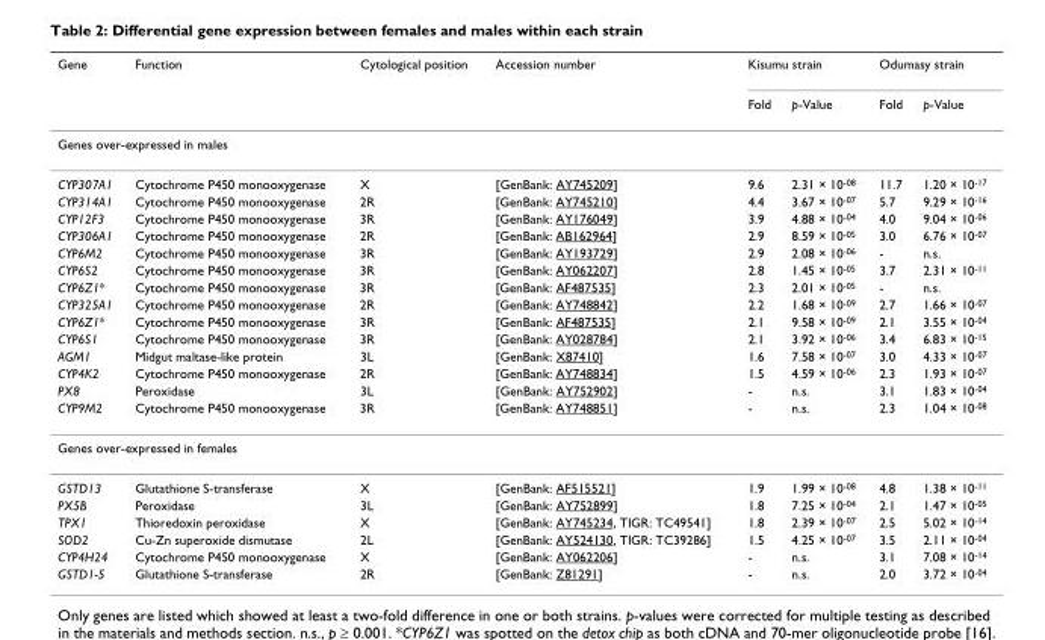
<table><thead><tr><td rowspan="2">Gene</td><td rowspan="2">Function</td><td rowspan="2">Cytological position</td><td rowspan="2">Accession number</td><td colspan="2">Kisumu strain</td><td colspan="2">Odumasy strain</td></tr><tr><td>Fold</td><td>p-Value</td><td>Fold</td><td>p-Value</td></tr></thead><tbody><tr><td colspan="8">Genes over-expressed in males</td></tr><tr><td>CYP307A1</td><td>Cytochrome P450 monooxygenase</td><td>X</td><td>[GenBank: AY745209]</td><td>9.6</td><td>2.31 × 10-08</td><td>11.7</td><td>1.20 × 10-17</td></tr><tr><td>CYP314A1</td><td>Cytochrome P450 monooxygenase</td><td>2R</td><td>[GenBank: AY745210]</td><td>4.4</td><td>3.67 × 10-07</td><td>5.7</td><td>9.29 × 10-16</td></tr><tr><td>CYP12F3</td><td>Cytochrome P450 monooxygenase</td><td>3R</td><td>[GenBank: AY176049]</td><td>3.9</td><td>4.88 × 10-04</td><td>4.0</td><td>9.04 × 10-06</td></tr><tr><td>CYP306A1</td><td>Cytochrome P450 monooxygenase</td><td>2R</td><td>[GenBank: AB162964]</td><td>2.9</td><td>8.59 × 10-05</td><td>3.0</td><td>6.76 × 10-07</td></tr><tr><td>CYP6M2</td><td>Cytochrome P450 monooxygenase</td><td>3R</td><td>[GenBank: AY193729]</td><td>2.9</td><td>2.08 × 10-06</td><td>-</td><td>n.s.</td></tr><tr><td>CYP6S2</td><td>Cytochrome P450 monooxygenase</td><td>3R</td><td>[GenBank: AY062207]</td><td>2.8</td><td>1.45 × 10-05</td><td>3.7</td><td>2.31 × 10-11</td></tr><tr><td>CYP6Z1*</td><td>Cytochrome P450 monooxygenase</td><td>3R</td><td>[GenBank: AF487535]</td><td>2.3</td><td>2.01 × 10-05</td><td>-</td><td>n.s.</td></tr><tr><td>CYP325A1</td><td>Cytochrome P450 monooxygenase</td><td>2R</td><td>[GenBank: AY748842]</td><td>2.2</td><td>1.68 × 10-09</td><td>2.7</td><td>1.66 × 10-07</td></tr><tr><td>CYP6Z1*</td><td>Cytochrome P450 monooxygenase</td><td>3R</td><td>[GenBank: AF487535]</td><td>2.1</td><td>9.58 × 10-09</td><td>2.1</td><td>3.55 × 10-04</td></tr><tr><td>CYP6S1</td><td>Cytochrome P450 monooxygenase</td><td>3R</td><td>[GenBank: AY028784]</td><td>2.1</td><td>3.92 × 10-06</td><td>3.4</td><td>6.83 × 10-15</td></tr><tr><td>AGM1</td><td>Midgut maltase-like protein</td><td>3L</td><td>[GenBank: X87410]</td><td>1.6</td><td>7.58 × 10-07</td><td>3.0</td><td>4.33 × 10-07</td></tr><tr><td>CYP4K2</td><td>Cytochrome P450 monooxygenase</td><td>2R</td><td>[GenBank: AY748834]</td><td>1.5</td><td>4.59 × 10-06</td><td>2.3</td><td>1.93 × 10-07</td></tr><tr><td>PX8</td><td>Peroxidase</td><td>3L</td><td>[GenBank: AY752902]</td><td>-</td><td>n.s.</td><td>3.1</td><td>1.83 × 10-04</td></tr><tr><td>CYP9M2</td><td>Cytochrome P450 monooxygenase</td><td>3R</td><td>[GenBank: AY748851]</td><td>-</td><td>n.s.</td><td>2.3</td><td>1.04 × 10-08</td></tr><tr><td colspan="8">Genes over-expressed in females</td></tr><tr><td>GSTD13</td><td>Glutathione S-transferase</td><td>X</td><td>[GenBank: AF515521]</td><td>1.9</td><td>1.99 × 10-08</td><td>4.8</td><td>1.38 × 10-11</td></tr><tr><td>PX5B</td><td>Peroxidase</td><td>3L</td><td>[GenBank: AY752899]</td><td>1.8</td><td>7.25 × 10-04</td><td>2.1</td><td>1.47 × 10-05</td></tr><tr><td>TPX1</td><td>Thioredoxin peroxidase</td><td>X</td><td>[GenBank: AY745234, TIGR: TC49541]</td><td>1.8</td><td>2.39 × 10-07</td><td>2.5</td><td>5.02 × 10-14</td></tr><tr><td>SOD2</td><td>Cu-Zn superoxide dismutase</td><td>2L</td><td>[GenBank: AY524130, TIGR: TC39286]</td><td>1.5</td><td>4.25 × 10-07</td><td>3.5</td><td>2.11 × 10-04</td></tr><tr><td>CYP4H24</td><td>Cytochrome P450 monooxygenase</td><td>X</td><td>[GenBank: AY062206]</td><td>-</td><td>n.s.</td><td>3.1</td><td>7.08 × 10-14</td></tr><tr><td>GSTD1-5</td><td>Glutathione S-transferase</td><td>2R</td><td>[GenBank: Z81291]</td><td>-</td><td>n.s.</td><td>2.0</td><td>3.72 × 10-04</td></tr></tbody></table>